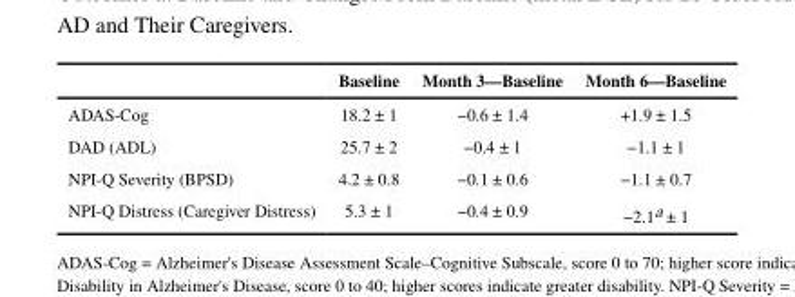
<table><thead><tr><td></td><td>Baseline</td><td>Month 3—Baseline</td><td>Month 6—Baseline</td></tr></thead><tbody><tr><td>ADAS-Cog</td><td>18.2 ± 1</td><td>−0.6 ± 1.4</td><td>+1.9 ± 1.5</td></tr><tr><td>DAD (ADL)</td><td>25.7 ± 2</td><td>−0.4 ± 1</td><td>−1.1 ± 1</td></tr><tr><td>NPI-Q Severity (BPSD)</td><td>4.2 ± 0.8</td><td>−0.1 ± 0.6</td><td>−1.1 ± 0.7</td></tr><tr><td>NPI-Q Distress (Caregiver Distress)</td><td>5.3 ± 1</td><td>−0.4 ± 0.9</td><td>−2.1<sup>a</sup> ± 1</td></tr></tbody></table>